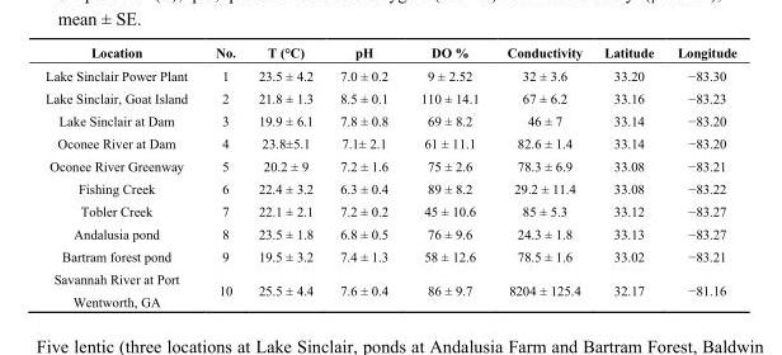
<table><thead><tr><td>Location</td><td>No.</td><td>T (°C)</td><td>pH</td><td>DO %</td><td>Conductivity</td><td>Latitude</td><td>Longitude</td></tr></thead><tbody><tr><td>Lake Sinclair Power Plant</td><td>1</td><td>23.5 ± 4.2</td><td>7.0 ± 0.2</td><td>9 ± 2.52</td><td>32 ± 3.6</td><td>33.20</td><td>−83.30</td></tr><tr><td>Lake Sinclair, Goat Island</td><td>2</td><td>21.8 ± 1.3</td><td>8.5 ± 0.1</td><td>110 ± 14.1</td><td>67 ± 6.2</td><td>33.16</td><td>−83.23</td></tr><tr><td>Lake Sinclair at Dam</td><td>3</td><td>19.9 ± 6.1</td><td>7.8 ± 0.8</td><td>69 ± 8.2</td><td>46 ± 7</td><td>33.14</td><td>−83.20</td></tr><tr><td>Oconee River at Dam</td><td>4</td><td>23.8±5.1</td><td>7.1± 2.1</td><td>61 ± 11.1</td><td>82.6 ± 1.4</td><td>33.14</td><td>−83.20</td></tr><tr><td>Oconee River Greenway</td><td>5</td><td>20.2 ± 9</td><td>7.2 ± 1.6</td><td>75 ± 2.6</td><td>78.3 ± 6.9</td><td>33.08</td><td>−83.21</td></tr><tr><td>Fishing Creek</td><td>6</td><td>22.4 ± 3.2</td><td>6.3 ± 0.4</td><td>89 ± 8.2</td><td>29.2 ± 11.4</td><td>33.08</td><td>−83.22</td></tr><tr><td>Tobler Creek</td><td>7</td><td>22.1 ± 2.1</td><td>7.2 ± 0.2</td><td>45 ± 10.6</td><td>85 ± 5.3</td><td>33.12</td><td>−83.27</td></tr><tr><td>Andalusia pond</td><td>8</td><td>23.5 ± 1.8</td><td>6.8 ± 0.5</td><td>76 ± 9.6</td><td>24.3 ± 1.8</td><td>33.13</td><td>−83.27</td></tr><tr><td>Bartram forest pond</td><td>9</td><td>19.5 ± 3.2</td><td>7.4 ± 1.3</td><td>58 ± 12.6</td><td>78.5 ± 1.6</td><td>33.02</td><td>−83.21</td></tr><tr><td>Savannah River at Port Wentworth, GA</td><td>10</td><td>25.5 ± 4.4</td><td>7.6 ± 0.4</td><td>86 ± 9.7</td><td>8204 ± 125.4</td><td>32.17</td><td>−81.16</td></tr></tbody></table>